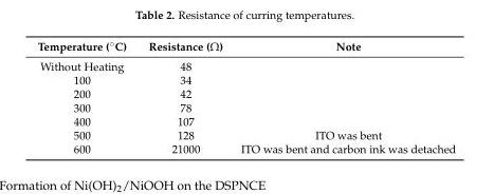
<table><thead><tr><td>Temperature (˝C)</td><td>Resistance (Ω)</td><td>Note</td></tr></thead><tbody><tr><td>Without Heating</td><td>48</td><td></td></tr><tr><td>100</td><td>34</td><td></td></tr><tr><td>200</td><td>42</td><td></td></tr><tr><td>300</td><td>78</td><td></td></tr><tr><td>400</td><td>107</td><td></td></tr><tr><td>500</td><td>128</td><td>ITO was bent</td></tr><tr><td>600</td><td>21000</td><td>ITO was bent and carbon ink was detached</td></tr></tbody></table>